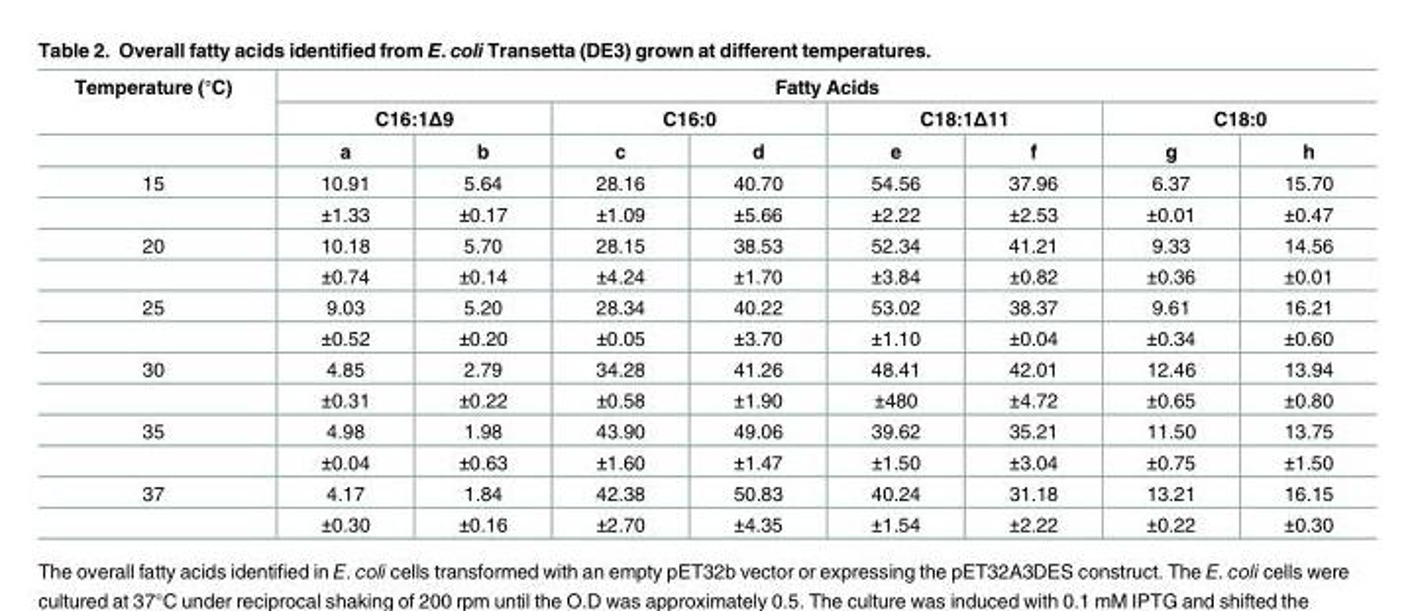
<table><thead><tr><td rowspan="3">Temperature (°C)</td><td colspan="8">Fatty Acids</td></tr><tr><td colspan="2">C16:1Δ9</td><td colspan="2">C16:0</td><td colspan="2">C18:1Δ11</td><td colspan="2">C18:0</td></tr><tr><td>a</td><td>b</td><td>c</td><td>d</td><td>e</td><td>f</td><td>g</td><td>h</td></tr></thead><tbody><tr><td rowspan="2">15</td><td>10.91</td><td>5.64</td><td>28.16</td><td>40.70</td><td>54.56</td><td>37.96</td><td>6.37</td><td>15.70</td></tr><tr><td>±1.33</td><td>±0.17</td><td>±1.09</td><td>±5.66</td><td>±2.22</td><td>±2.53</td><td>±0.01</td><td>±0.47</td></tr><tr><td rowspan="2">20</td><td>10.18</td><td>5.70</td><td>28.15</td><td>38.53</td><td>52.34</td><td>41.21</td><td>9.33</td><td>14.56</td></tr><tr><td>±0.74</td><td>±0.14</td><td>±4.24</td><td>±1.70</td><td>±3.84</td><td>±0.82</td><td>±0.36</td><td>±0.01</td></tr><tr><td rowspan="2">25</td><td>9.03</td><td>5.20</td><td>28.34</td><td>40.22</td><td>53.02</td><td>38.37</td><td>9.61</td><td>16.21</td></tr><tr><td>±0.52</td><td>±0.20</td><td>±0.05</td><td>±3.70</td><td>±1.10</td><td>±0.04</td><td>±0.34</td><td>±0.60</td></tr><tr><td rowspan="2">30</td><td>4.85</td><td>2.79</td><td>34.28</td><td>41.26</td><td>48.41</td><td>42.01</td><td>12.46</td><td>13.94</td></tr><tr><td>±0.31</td><td>±0.22</td><td>±0.58</td><td>±1.90</td><td>±480</td><td>±4.72</td><td>±0.65</td><td>±0.80</td></tr><tr><td rowspan="2">35</td><td>4.98</td><td>1.98</td><td>43.90</td><td>49.06</td><td>39.62</td><td>35.21</td><td>11.50</td><td>13.75</td></tr><tr><td>±0.04</td><td>±0.63</td><td>±1.60</td><td>±1.47</td><td>±1.50</td><td>±3.04</td><td>±0.75</td><td>±1.50</td></tr><tr><td rowspan="2">37</td><td>4.17</td><td>1.84</td><td>42.38</td><td>50.83</td><td>40.24</td><td>31.18</td><td>13.21</td><td>16.15</td></tr><tr><td>±0.30</td><td>±0.16</td><td>±2.70</td><td>±4.35</td><td>±1.54</td><td>±2.22</td><td>±0.22</td><td>±0.30</td></tr></tbody></table>